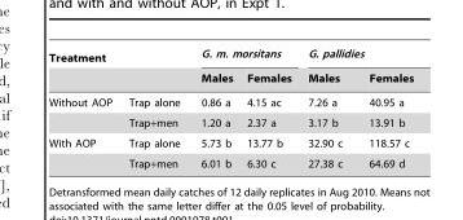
<table><thead><tr><td colspan="2">Treatment</td><td colspan="2">G. m. morsitans</td><td colspan="2">G. pallidies</td></tr><tr><td></td><td></td><td>Males</td><td>Females</td><td>Males</td><td>Females</td></tr></thead><tbody><tr><td rowspan="2">Without AOP</td><td>Trap alone</td><td>0.86 a</td><td>4.15 ac</td><td>7.26 a</td><td>40.95 a</td></tr><tr><td>Trap+men</td><td>1.20 a</td><td>2.37 a</td><td>3.17 b</td><td>13.91 b</td></tr><tr><td rowspan="2">With AOP</td><td>Trap alone</td><td>5.73 b</td><td>13.77 b</td><td>32.90 c</td><td>118.57 c</td></tr><tr><td>Trap+men</td><td>6.01 b</td><td>6.30 c</td><td>27.38 c</td><td>64.69 d</td></tr></tbody></table>